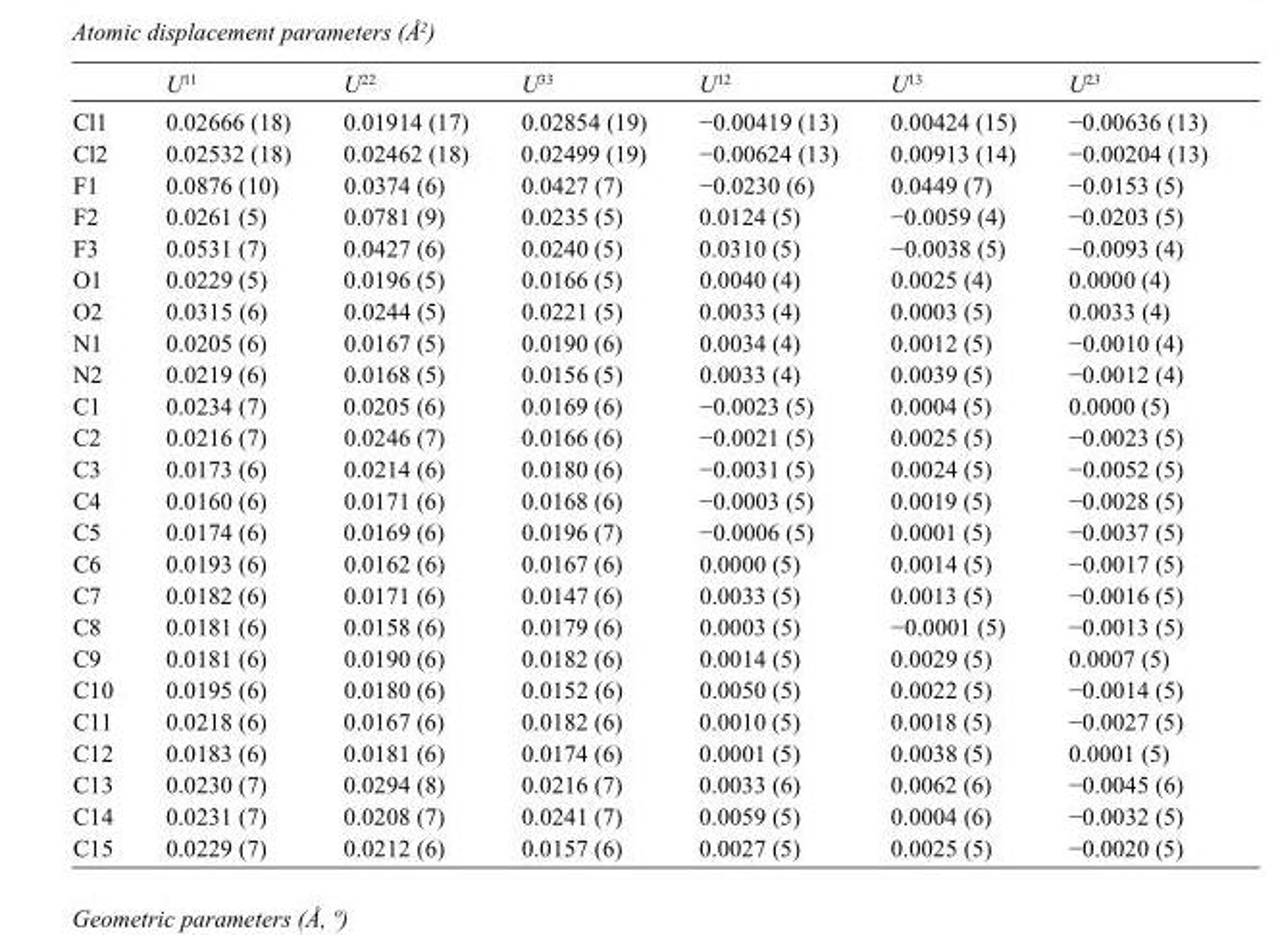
<table><thead><tr><td></td><td>U<sup>11</sup></td><td>U<sup>22</sup></td><td>U<sup>33</sup></td><td>U<sup>12</sup></td><td>U<sup>13</sup></td><td>U<sup>23</sup></td></tr></thead><tbody><tr><td>Cl1</td><td>0.02666 (18)</td><td>0.01914 (17)</td><td>0.02854 (19)</td><td>−0.00419 (13)</td><td>0.00424 (15)</td><td>−0.00636 (13)</td></tr><tr><td>Cl2</td><td>0.02532 (18)</td><td>0.02462 (18)</td><td>0.02499 (19)</td><td>−0.00624 (13)</td><td>0.00913 (14)</td><td>−0.00204 (13)</td></tr><tr><td>F1</td><td>0.0876 (10)</td><td>0.0374 (6)</td><td>0.0427 (7)</td><td>−0.0230 (6)</td><td>0.0449 (7)</td><td>−0.0153 (5)</td></tr><tr><td>F2</td><td>0.0261 (5)</td><td>0.0781 (9)</td><td>0.0235 (5)</td><td>0.0124 (5)</td><td>−0.0059 (4)</td><td>−0.0203 (5)</td></tr><tr><td>F3</td><td>0.0531 (7)</td><td>0.0427 (6)</td><td>0.0240 (5)</td><td>0.0310 (5)</td><td>−0.0038 (5)</td><td>−0.0093 (4)</td></tr><tr><td>O1</td><td>0.0229 (5)</td><td>0.0196 (5)</td><td>0.0166 (5)</td><td>0.0040 (4)</td><td>0.0025 (4)</td><td>0.0000 (4)</td></tr><tr><td>O2</td><td>0.0315 (6)</td><td>0.0244 (5)</td><td>0.0221 (5)</td><td>0.0033 (4)</td><td>0.0003 (5)</td><td>0.0033 (4)</td></tr><tr><td>N1</td><td>0.0205 (6)</td><td>0.0167 (5)</td><td>0.0190 (6)</td><td>0.0034 (4)</td><td>0.0012 (5)</td><td>−0.0010 (4)</td></tr><tr><td>N2</td><td>0.0219 (6)</td><td>0.0168 (5)</td><td>0.0156 (5)</td><td>0.0033 (4)</td><td>0.0039 (5)</td><td>−0.0012 (4)</td></tr><tr><td>C1</td><td>0.0234 (7)</td><td>0.0205 (6)</td><td>0.0169 (6)</td><td>−0.0023 (5)</td><td>0.0004 (5)</td><td>0.0000 (5)</td></tr><tr><td>C2</td><td>0.0216 (7)</td><td>0.0246 (7)</td><td>0.0166 (6)</td><td>−0.0021 (5)</td><td>0.0025 (5)</td><td>−0.0023 (5)</td></tr><tr><td>C3</td><td>0.0173 (6)</td><td>0.0214 (6)</td><td>0.0180 (6)</td><td>−0.0031 (5)</td><td>0.0024 (5)</td><td>−0.0052 (5)</td></tr><tr><td>C4</td><td>0.0160 (6)</td><td>0.0171 (6)</td><td>0.0168 (6)</td><td>−0.0003 (5)</td><td>0.0019 (5)</td><td>−0.0028 (5)</td></tr><tr><td>C5</td><td>0.0174 (6)</td><td>0.0169 (6)</td><td>0.0196 (7)</td><td>−0.0006 (5)</td><td>0.0001 (5)</td><td>−0.0037 (5)</td></tr><tr><td>C6</td><td>0.0193 (6)</td><td>0.0162 (6)</td><td>0.0167 (6)</td><td>0.0000 (5)</td><td>0.0014 (5)</td><td>−0.0017 (5)</td></tr><tr><td>C7</td><td>0.0182 (6)</td><td>0.0171 (6)</td><td>0.0147 (6)</td><td>0.0033 (5)</td><td>0.0013 (5)</td><td>−0.0016 (5)</td></tr><tr><td>C8</td><td>0.0181 (6)</td><td>0.0158 (6)</td><td>0.0179 (6)</td><td>0.0003 (5)</td><td>−0.0001 (5)</td><td>−0.0013 (5)</td></tr><tr><td>C9</td><td>0.0181 (6)</td><td>0.0190 (6)</td><td>0.0182 (6)</td><td>0.0014 (5)</td><td>0.0029 (5)</td><td>0.0007 (5)</td></tr><tr><td>C10</td><td>0.0195 (6)</td><td>0.0180 (6)</td><td>0.0152 (6)</td><td>0.0050 (5)</td><td>0.0022 (5)</td><td>−0.0014 (5)</td></tr><tr><td>C11</td><td>0.0218 (6)</td><td>0.0167 (6)</td><td>0.0182 (6)</td><td>0.0010 (5)</td><td>0.0018 (5)</td><td>−0.0027 (5)</td></tr><tr><td>C12</td><td>0.0183 (6)</td><td>0.0181 (6)</td><td>0.0174 (6)</td><td>0.0001 (5)</td><td>0.0038 (5)</td><td>0.0001 (5)</td></tr><tr><td>C13</td><td>0.0230 (7)</td><td>0.0294 (8)</td><td>0.0216 (7)</td><td>0.0033 (6)</td><td>0.0062 (6)</td><td>−0.0045 (6)</td></tr><tr><td>C14</td><td>0.0231 (7)</td><td>0.0208 (7)</td><td>0.0241 (7)</td><td>0.0059 (5)</td><td>0.0004 (6)</td><td>−0.0032 (5)</td></tr><tr><td>C15</td><td>0.0229 (7)</td><td>0.0212 (6)</td><td>0.0157 (6)</td><td>0.0027 (5)</td><td>0.0025 (5)</td><td>−0.0020 (5)</td></tr></tbody></table>